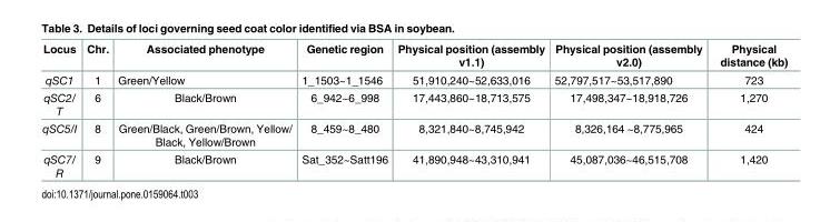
<table><thead><tr><td>Locus</td><td>Chr.</td><td>Associated phenotype</td><td>Genetic region</td><td>Physical position (assembly v1.1)</td><td>Physical position (assembly v2.0)</td><td>Physical distance (kb)</td></tr></thead><tbody><tr><td>qSC1</td><td>1</td><td>Green/Yellow</td><td>1_1503~1_1546</td><td>51,910,240~52,633,016</td><td>52,797,517~53,517,890</td><td>723</td></tr><tr><td>qSC2/ T</td><td>6</td><td>Black/Brown</td><td>6_942~6_998</td><td>17,443,860~18,713,575</td><td>17,498,347~18,918,726</td><td>1,270</td></tr><tr><td>qSC5/I</td><td>8</td><td>Green/Black, Green/Brown, Yellow/ Black, Yellow/Brown</td><td>8_459~8_480</td><td>8,321,840~8,745,942</td><td>8,326,164 ~8,775,965</td><td>424</td></tr><tr><td>qSC7/ R</td><td>9</td><td>Black/Brown</td><td>Sat_352~Satt196</td><td>41,890,948~43,310,941</td><td>45,087,036~46,515,708</td><td>1,420</td></tr></tbody></table>